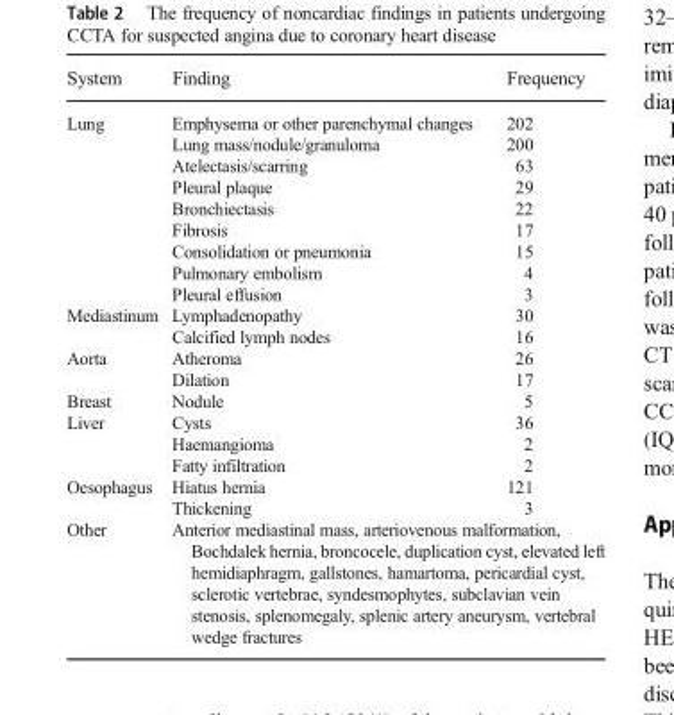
<table><thead><tr><td>System</td><td>Finding</td><td>Frequency</td></tr></thead><tbody><tr><td rowspan="9">Lung</td><td>Emphysema or other parenchymal changes</td><td>202</td></tr><tr><td>Lung mass/nodule/granuloma</td><td>200</td></tr><tr><td>Atelectasis/scarring</td><td>63</td></tr><tr><td>Pleural plaque</td><td>29</td></tr><tr><td>Bronchiectasis</td><td>22</td></tr><tr><td>Fibrosis</td><td>17</td></tr><tr><td>Consolidation or pneumonia</td><td>15</td></tr><tr><td>Pulmonary embolism</td><td>4</td></tr><tr><td>Pleural effusion</td><td>3</td></tr><tr><td rowspan="2">Mediastinum</td><td>Lymphadenopathy</td><td>30</td></tr><tr><td>Calcified lymph nodes</td><td>16</td></tr><tr><td rowspan="2">Aorta</td><td>Atheroma</td><td>26</td></tr><tr><td>Dilation</td><td>17</td></tr><tr><td>Breast</td><td>Nodule</td><td>5</td></tr><tr><td rowspan="3">Liver</td><td>Cysts</td><td>36</td></tr><tr><td>Haemangioma</td><td>2</td></tr><tr><td>Fatty infiltration</td><td>2</td></tr><tr><td rowspan="2">Oesophagus</td><td>Hiatus hernia</td><td>121</td></tr><tr><td>Thickening</td><td>3</td></tr><tr><td>Other</td><td colspan="2">Anterior mediastinal mass, arteriovenous malformation, Bochdalek hernia, broncocele, duplication cyst, elevated left hemidiaphragm, gallstones, hamartoma, pericardial cyst, sclerotic vertebrae, syndesmophytes, subclavian vein stenosis, splenomegaly, splenic artery aneurysm, vertebral wedge fractures</td></tr></tbody></table>